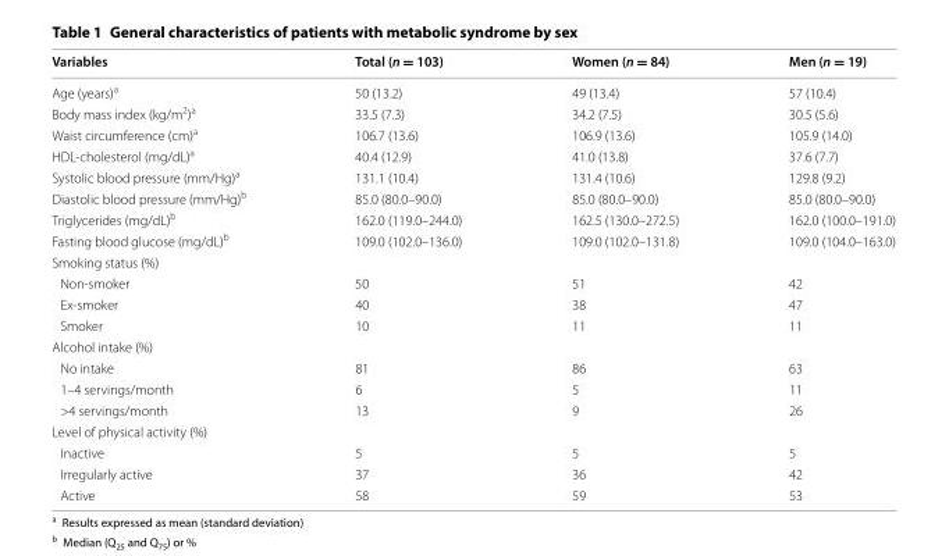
<table><thead><tr><td>Variables</td><td>Total (n = 103)</td><td>Women (n = 84)</td><td>Men (n = 19)</td></tr></thead><tbody><tr><td>Age (years)<sup>a</sup></td><td>50 (13.2)</td><td>49 (13.4)</td><td>57 (10.4)</td></tr><tr><td>Body mass index (kg/m<sup>2</sup>)<sup>a</sup></td><td>33.5 (7.3)</td><td>34.2 (7.5)</td><td>30.5 (5.6)</td></tr><tr><td>Waist circumference (cm)<sup>a</sup></td><td>106.7 (13.6)</td><td>106.9 (13.6)</td><td>105.9 (14.0)</td></tr><tr><td>HDL‑cholesterol (mg/dL)<sup>a</sup></td><td>40.4 (12.9)</td><td>41.0 (13.8)</td><td>37.6 (7.7)</td></tr><tr><td>Systolic blood pressure (mm/Hg)<sup>a</sup></td><td>131.1 (10.4)</td><td>131.4 (10.6)</td><td>129.8 (9.2)</td></tr><tr><td>Diastolic blood pressure (mm/Hg)<sup>b</sup></td><td>85.0 (80.0–90.0)</td><td>85.0 (80.0–90.0)</td><td>85.0 (80.0–90.0)</td></tr><tr><td>Triglycerides (mg/dL)<sup>b</sup></td><td>162.0 (119.0–244.0)</td><td>162.5 (130.0–272.5)</td><td>162.0 (100.0–191.0)</td></tr><tr><td>Fasting blood glucose (mg/dL)<sup>b</sup></td><td>109.0 (102.0–136.0)</td><td>109.0 (102.0–131.8)</td><td>109.0 (104.0–163.0)</td></tr><tr><td colspan="4">Smoking status (%)</td></tr><tr><td>Non‑smoker</td><td>50</td><td>51</td><td>42</td></tr><tr><td>Ex‑smoker</td><td>40</td><td>38</td><td>47</td></tr><tr><td>Smoker</td><td>10</td><td>11</td><td>11</td></tr><tr><td colspan="4">Alcohol intake (%)</td></tr><tr><td>No intake</td><td>81</td><td>86</td><td>63</td></tr><tr><td>1–4 servings/month</td><td>6</td><td>5</td><td>11</td></tr><tr><td>&gt;4 servings/month</td><td>13</td><td>9</td><td>26</td></tr><tr><td colspan="4">Level of physical activity (%)</td></tr><tr><td>Inactive</td><td>5</td><td>5</td><td>5</td></tr><tr><td>Irregularly active</td><td>37</td><td>36</td><td>42</td></tr><tr><td>Active</td><td>58</td><td>59</td><td>53</td></tr></tbody></table>